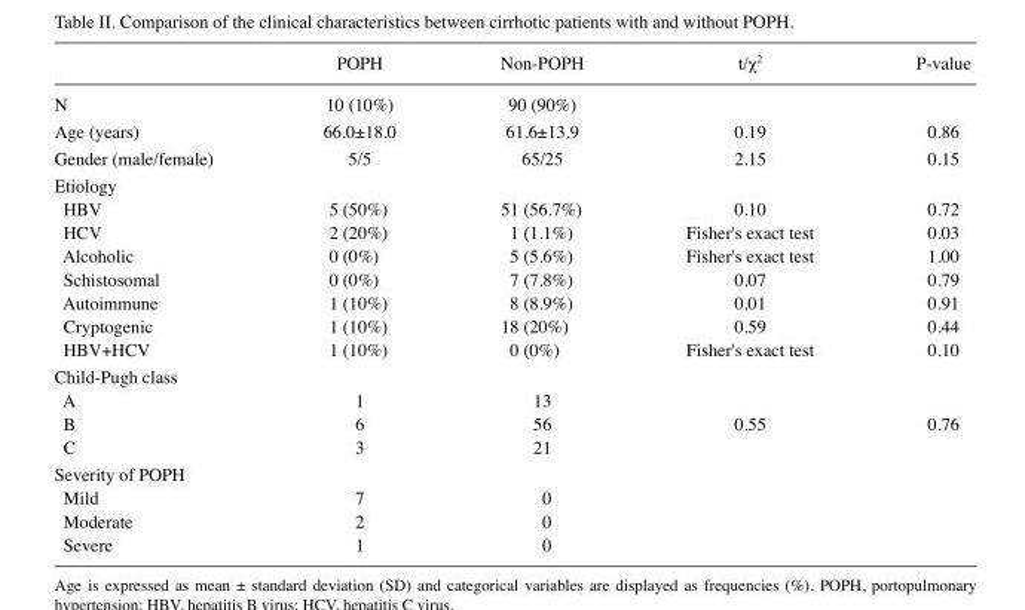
<table><thead><tr><td></td><td>POPH</td><td>Non-POPH</td><td>t/χ<sup>2</sup></td><td>P-value</td></tr></thead><tbody><tr><td>N</td><td>10 (10%)</td><td>90 (90%)</td><td></td><td></td></tr><tr><td>Age (years)</td><td>66.0±18.0</td><td>61.6±13.9</td><td>0.19</td><td>0.86</td></tr><tr><td>Gender (male/female)</td><td>5/5</td><td>65/25</td><td>2.15</td><td>0.15</td></tr><tr><td colspan="5">Etiology</td></tr><tr><td>HBV</td><td>5 (50%)</td><td>51 (56.7%)</td><td>0.10</td><td>0.72</td></tr><tr><td>HCV</td><td>2 (20%)</td><td>1 (1.1%)</td><td>Fisher&#x27;s exact test</td><td>0.03</td></tr><tr><td>Alcoholic</td><td>0 (0%)</td><td>5 (5.6%)</td><td>Fisher&#x27;s exact test</td><td>1.00</td></tr><tr><td>Schistosomal</td><td>0 (0%)</td><td>7 (7.8%)</td><td>0.07</td><td>0.79</td></tr><tr><td>Autoimmune</td><td>1 (10%)</td><td>8 (8.9%)</td><td>0.01</td><td>0.91</td></tr><tr><td>Cryptogenic</td><td>1 (10%)</td><td>18 (20%)</td><td>0.59</td><td>0.44</td></tr><tr><td>HBV+HCV</td><td>1 (10%)</td><td>0 (0%)</td><td>Fisher&#x27;s exact test</td><td>0.10</td></tr><tr><td colspan="5">Child-Pugh class</td></tr><tr><td>A</td><td>1</td><td>13</td><td></td><td></td></tr><tr><td>B</td><td>6</td><td>56</td><td>0.55</td><td>0.76</td></tr><tr><td>C</td><td>3</td><td>21</td><td></td><td></td></tr><tr><td colspan="5">Severity of POPH</td></tr><tr><td>Mild</td><td>7</td><td>0</td><td></td><td></td></tr><tr><td>Moderate</td><td>2</td><td>0</td><td></td><td></td></tr><tr><td>Severe</td><td>1</td><td>0</td><td></td><td></td></tr></tbody></table>